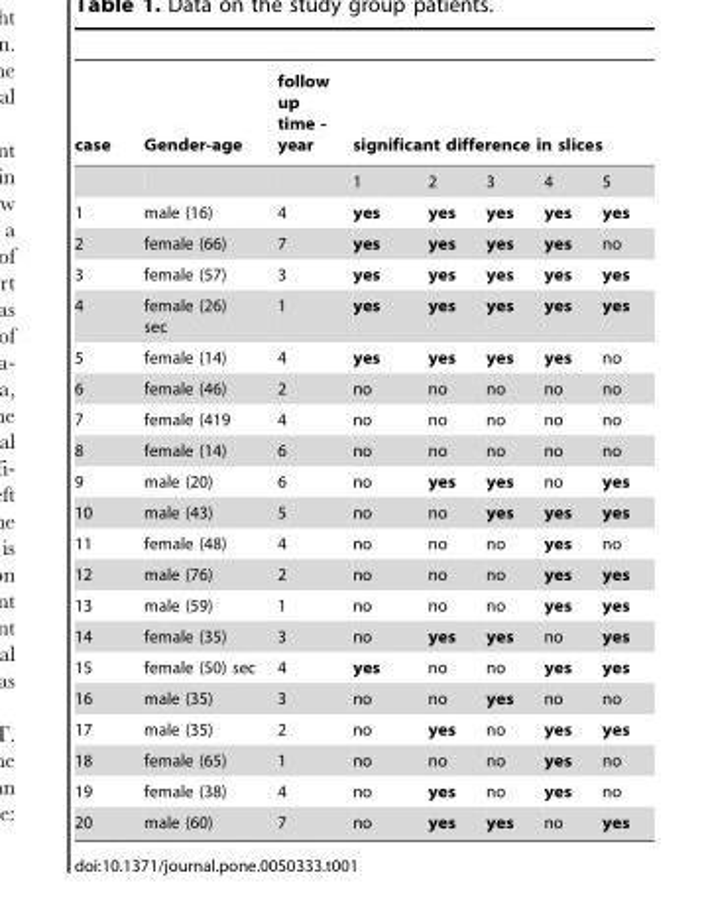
<table><thead><tr><td rowspan="2">case</td><td rowspan="2">Gender-age</td><td rowspan="2">follow up time - year</td><td colspan="5">significant difference in slices</td></tr><tr><td>1</td><td>2</td><td>3</td><td>4</td><td>5</td></tr></thead><tbody><tr><td>1</td><td>male (16)</td><td>4</td><td>yes</td><td>yes</td><td>yes</td><td>yes</td><td>yes</td></tr><tr><td>2</td><td>female (66)</td><td>7</td><td>yes</td><td>yes</td><td>yes</td><td>yes</td><td>no</td></tr><tr><td>3</td><td>female (57)</td><td>3</td><td>yes</td><td>yes</td><td>yes</td><td>yes</td><td>yes</td></tr><tr><td>4</td><td>female (26) sec</td><td>1</td><td>yes</td><td>yes</td><td>yes</td><td>yes</td><td>yes</td></tr><tr><td>5</td><td>female (14)</td><td>4</td><td>yes</td><td>yes</td><td>yes</td><td>yes</td><td>no</td></tr><tr><td>6</td><td>female (46)</td><td>2</td><td>no</td><td>no</td><td>no</td><td>no</td><td>no</td></tr><tr><td>7</td><td>female (419</td><td>4</td><td>no</td><td>no</td><td>no</td><td>no</td><td>no</td></tr><tr><td>8</td><td>female (14)</td><td>6</td><td>no</td><td>no</td><td>no</td><td>no</td><td>no</td></tr><tr><td>9</td><td>male (20)</td><td>6</td><td>no</td><td>yes</td><td>yes</td><td>no</td><td>yes</td></tr><tr><td>10</td><td>male (43)</td><td>5</td><td>no</td><td>no</td><td>yes</td><td>yes</td><td>yes</td></tr><tr><td>11</td><td>female (48)</td><td>4</td><td>no</td><td>no</td><td>no</td><td>yes</td><td>no</td></tr><tr><td>12</td><td>male (76)</td><td>2</td><td>no</td><td>no</td><td>no</td><td>yes</td><td>yes</td></tr><tr><td>13</td><td>male (59)</td><td>1</td><td>no</td><td>no</td><td>no</td><td>yes</td><td>yes</td></tr><tr><td>14</td><td>female (35)</td><td>3</td><td>no</td><td>yes</td><td>yes</td><td>no</td><td>yes</td></tr><tr><td>15</td><td>female (50) sec</td><td>4</td><td>yes</td><td>no</td><td>no</td><td>yes</td><td>yes</td></tr><tr><td>16</td><td>male (35)</td><td>3</td><td>no</td><td>no</td><td>yes</td><td>no</td><td>no</td></tr><tr><td>17</td><td>male (35)</td><td>2</td><td>no</td><td>yes</td><td>no</td><td>yes</td><td>yes</td></tr><tr><td>18</td><td>female (65)</td><td>1</td><td>no</td><td>no</td><td>no</td><td>yes</td><td>no</td></tr><tr><td>19</td><td>female (38)</td><td>4</td><td>no</td><td>yes</td><td>no</td><td>yes</td><td>no</td></tr><tr><td>20</td><td>male (60)</td><td>7</td><td>no</td><td>yes</td><td>yes</td><td>no</td><td>yes</td></tr></tbody></table>